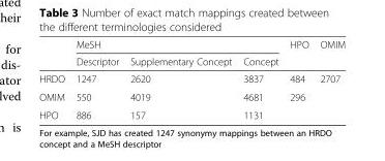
<table><thead><tr><td rowspan="2"></td><td colspan="3">MeSH</td><td rowspan="2">HPO</td><td rowspan="2">OMIM</td></tr><tr><td>Descriptor</td><td>Supplementary Concept</td><td>Concept</td></tr></thead><tbody><tr><td>HRDO</td><td>1247</td><td>2620</td><td>3837</td><td>484</td><td>2707</td></tr><tr><td>OMIM</td><td>550</td><td>4019</td><td>4681</td><td>296</td><td></td></tr><tr><td>HPO</td><td>886</td><td>157</td><td>1131</td><td></td><td></td></tr></tbody></table>